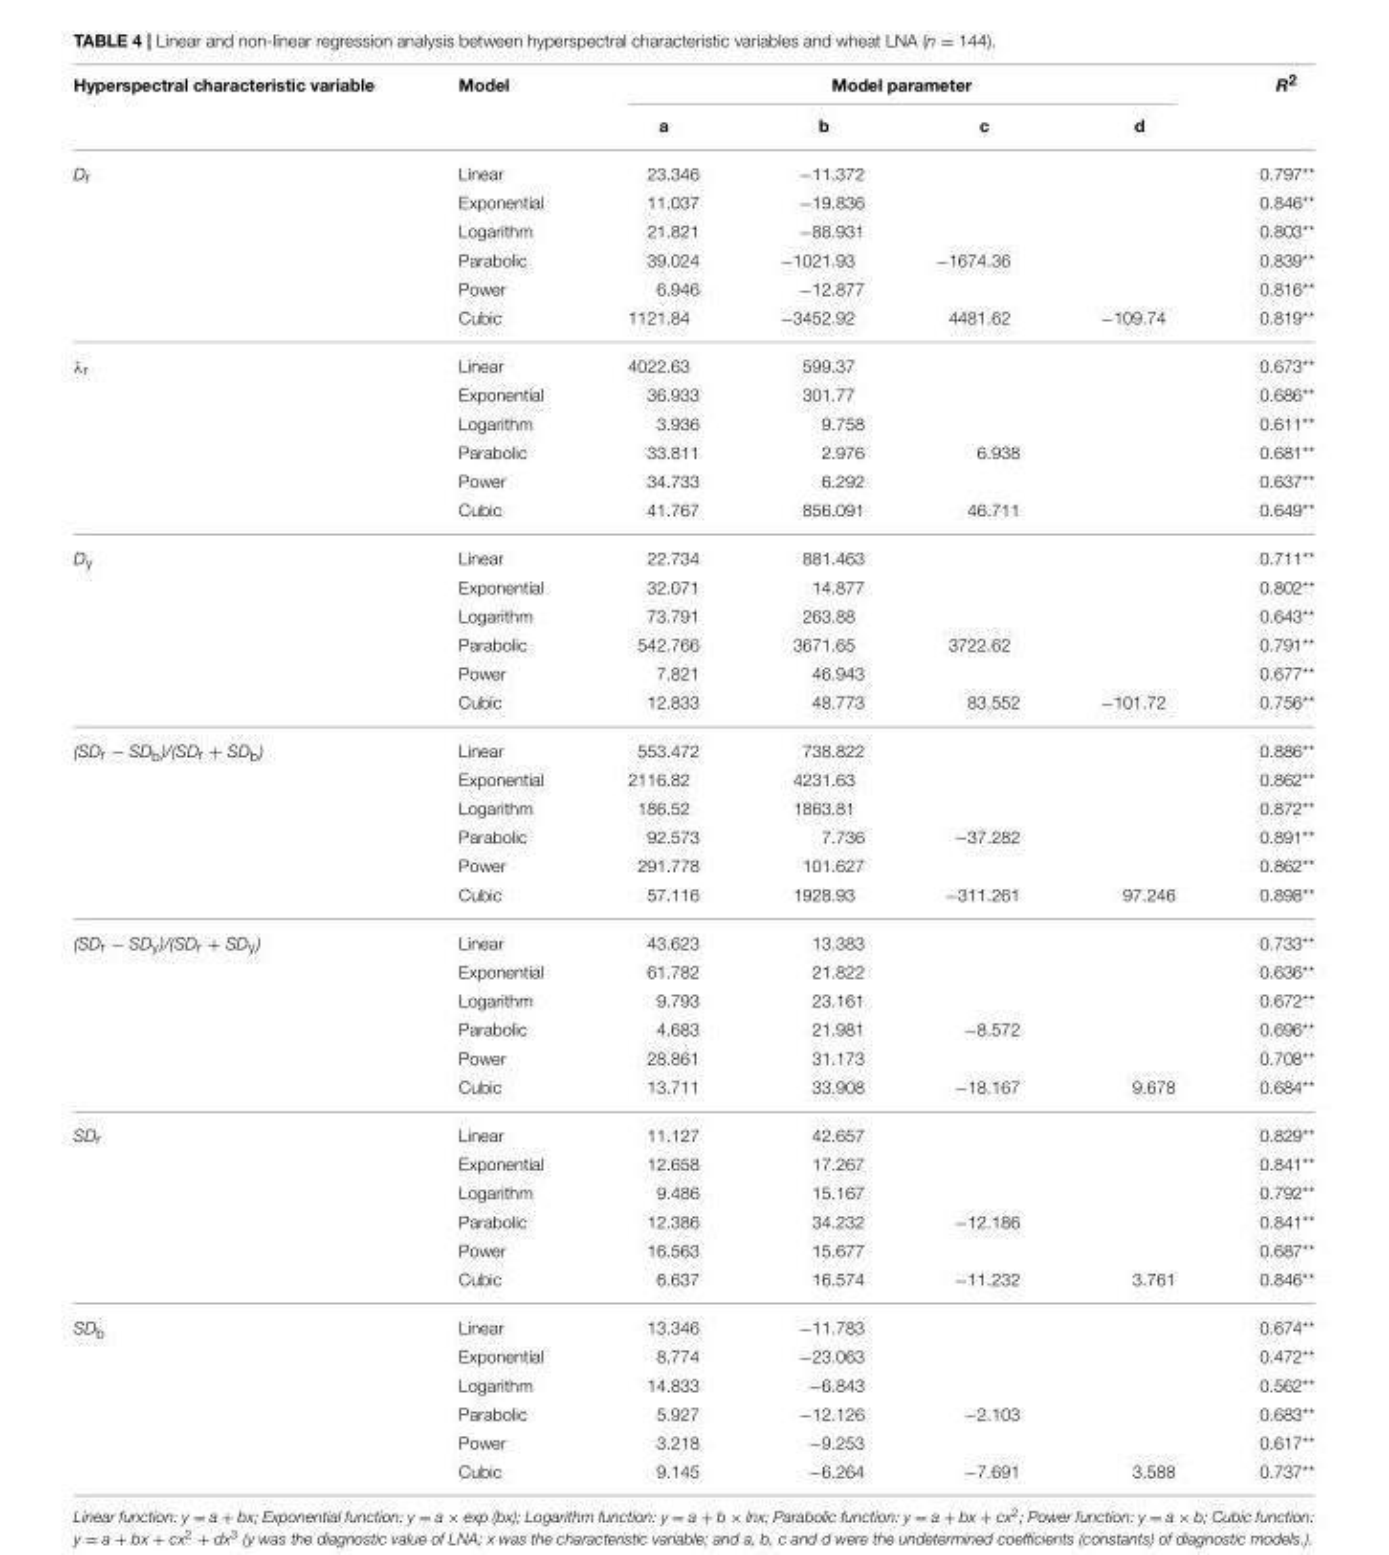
<table><thead><tr><td rowspan="2">Hyperspectral characteristic variable</td><td rowspan="2">Model</td><td colspan="4">Model parameter</td><td rowspan="2">R<sup>2</sup></td></tr><tr><td>a</td><td>b</td><td>c</td><td>d</td></tr></thead><tbody><tr><td rowspan="6">D<sub>r</sub></td><td>Linear</td><td>23.346</td><td>−11.372</td><td></td><td></td><td>0.797**</td></tr><tr><td>Exponential</td><td>11.037</td><td>−19.836</td><td></td><td></td><td>0.846**</td></tr><tr><td>Logarithm</td><td>21.821</td><td>−88.931</td><td></td><td></td><td>0.803**</td></tr><tr><td>Parabolic</td><td>39.024</td><td>−1021.93</td><td>−1674.36</td><td></td><td>0.839**</td></tr><tr><td>Power</td><td>6.946</td><td>−12.877</td><td></td><td></td><td>0.816**</td></tr><tr><td>Cubic</td><td>1121.84</td><td>−3452.92</td><td>4481.62</td><td>−109.74</td><td>0.819**</td></tr><tr><td rowspan="6">λ<sub>r</sub></td><td>Linear</td><td>4022.63</td><td>599.37</td><td></td><td></td><td>0.673**</td></tr><tr><td>Exponential</td><td>36.933</td><td>301.77</td><td></td><td></td><td>0.686**</td></tr><tr><td>Logarithm</td><td>3.936</td><td>9.758</td><td></td><td></td><td>0.611**</td></tr><tr><td>Parabolic</td><td>33.811</td><td>2.976</td><td>6.938</td><td></td><td>0.681**</td></tr><tr><td>Power</td><td>34.733</td><td>6.292</td><td></td><td></td><td>0.637**</td></tr><tr><td>Cubic</td><td>41.767</td><td>856.091</td><td>46.711</td><td></td><td>0.649**</td></tr><tr><td rowspan="6">D<sub>y</sub></td><td>Linear</td><td>22.734</td><td>881.463</td><td></td><td></td><td>0.711**</td></tr><tr><td>Exponential</td><td>32.071</td><td>14.877</td><td></td><td></td><td>0.802**</td></tr><tr><td>Logarithm</td><td>73.791</td><td>263.88</td><td></td><td></td><td>0.643**</td></tr><tr><td>Parabolic</td><td>542.766</td><td>3671.65</td><td>3722.62</td><td></td><td>0.791**</td></tr><tr><td>Power</td><td>7.821</td><td>46.943</td><td></td><td></td><td>0.677**</td></tr><tr><td>Cubic</td><td>12.833</td><td>48.773</td><td>83.552</td><td>−101.72</td><td>0.756**</td></tr><tr><td rowspan="6">(SD<sub>r</sub> − SD<sub>b</sub>)/(SD<sub>r</sub> + SD<sub>b</sub>)</td><td>Linear</td><td>553.472</td><td>738.822</td><td></td><td></td><td>0.886**</td></tr><tr><td>Exponential</td><td>2116.82</td><td>4231.63</td><td></td><td></td><td>0.862**</td></tr><tr><td>Logarithm</td><td>186.52</td><td>1863.81</td><td></td><td></td><td>0.872**</td></tr><tr><td>Parabolic</td><td>92.573</td><td>7.736</td><td>−37.282</td><td></td><td>0.891**</td></tr><tr><td>Power</td><td>291.778</td><td>101.627</td><td></td><td></td><td>0.862**</td></tr><tr><td>Cubic</td><td>57.116</td><td>1928.93</td><td>−311.261</td><td>97.246</td><td>0.898**</td></tr><tr><td rowspan="6">(SD<sub>r</sub> − SD<sub>y</sub>)/(SD<sub>r</sub> + SD<sub>y</sub>)</td><td>Linear</td><td>43.623</td><td>13.383</td><td></td><td></td><td>0.733**</td></tr><tr><td>Exponential</td><td>61.782</td><td>21.822</td><td></td><td></td><td>0.636**</td></tr><tr><td>Logarithm</td><td>9.793</td><td>23.161</td><td></td><td></td><td>0.672**</td></tr><tr><td>Parabolic</td><td>4.683</td><td>21.981</td><td>−8.572</td><td></td><td>0.696**</td></tr><tr><td>Power</td><td>28.861</td><td>31.173</td><td></td><td></td><td>0.708**</td></tr><tr><td>Cubic</td><td>13.711</td><td>33.908</td><td>−18.167</td><td>9.678</td><td>0.684**</td></tr><tr><td rowspan="6">SD<sub>r</sub></td><td>Linear</td><td>11.127</td><td>42.657</td><td></td><td></td><td>0.829**</td></tr><tr><td>Exponential</td><td>12.658</td><td>17.267</td><td></td><td></td><td>0.841**</td></tr><tr><td>Logarithm</td><td>9.486</td><td>15.167</td><td></td><td></td><td>0.792**</td></tr><tr><td>Parabolic</td><td>12.386</td><td>34.232</td><td>−12.186</td><td></td><td>0.841**</td></tr><tr><td>Power</td><td>16.563</td><td>15.677</td><td></td><td></td><td>0.687**</td></tr><tr><td>Cubic</td><td>6.637</td><td>16.574</td><td>−11.232</td><td>3.761</td><td>0.846**</td></tr><tr><td rowspan="6">SD<sub>b</sub></td><td>Linear</td><td>13.346</td><td>−11.783</td><td></td><td></td><td>0.674**</td></tr><tr><td>Exponential</td><td>8.774</td><td>−23.063</td><td></td><td></td><td>0.472**</td></tr><tr><td>Logarithm</td><td>14.833</td><td>−6.843</td><td></td><td></td><td>0.562**</td></tr><tr><td>Parabolic</td><td>5.927</td><td>−12.126</td><td>−2.103</td><td></td><td>0.683**</td></tr><tr><td>Power</td><td>3.218</td><td>−9.253</td><td></td><td></td><td>0.617**</td></tr><tr><td>Cubic</td><td>9.145</td><td>−6.264</td><td>−7.691</td><td>3.588</td><td>0.737**</td></tr></tbody></table>